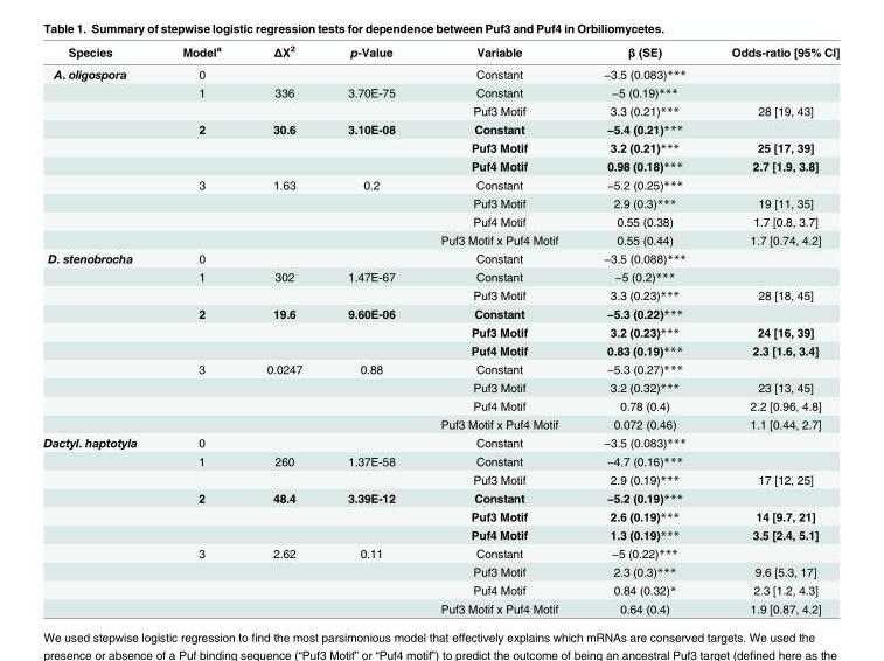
<table><thead><tr><td>Species</td><td>Model<sup>a</sup></td><td>ΔX<sup>2</sup></td><td>p-Value</td><td>Variable</td><td>β (SE)</td><td>Odds-ratio [95% CI]</td></tr></thead><tbody><tr><td rowspan="10">A. oligospora</td><td>0</td><td></td><td></td><td>Constant</td><td>−3.5 (0.083)***</td><td></td></tr><tr><td>1</td><td>336</td><td>3.70E-75</td><td>Constant</td><td>−5 (0.19)***</td><td></td></tr><tr><td></td><td></td><td></td><td>Puf3 Motif</td><td>3.3 (0.21)***</td><td>28 [19, 43]</td></tr><tr><td>2</td><td>30.6</td><td>3.10E-08</td><td>Constant</td><td>−5.4 (0.21)***</td><td></td></tr><tr><td></td><td></td><td></td><td>Puf3 Motif</td><td>3.2 (0.21)***</td><td>25 [17, 39]</td></tr><tr><td></td><td></td><td></td><td>Puf4 Motif</td><td>0.98 (0.18)***</td><td>2.7 [1.9, 3.8]</td></tr><tr><td>3</td><td>1.63</td><td>0.2</td><td>Constant</td><td>−5.2 (0.25)***</td><td></td></tr><tr><td></td><td></td><td></td><td>Puf3 Motif</td><td>2.9 (0.3)***</td><td>19 [11, 35]</td></tr><tr><td></td><td></td><td></td><td>Puf4 Motif</td><td>0.55 (0.38)</td><td>1.7 [0.8, 3.7]</td></tr><tr><td></td><td></td><td></td><td>Puf3 Motif x Puf4 Motif</td><td>0.55 (0.44)</td><td>1.7 [0.74, 4.2]</td></tr><tr><td rowspan="10">D. stenobrocha</td><td>0</td><td></td><td></td><td>Constant</td><td>−3.5 (0.088)***</td><td></td></tr><tr><td>1</td><td>302</td><td>1.47E-67</td><td>Constant</td><td>−5 (0.2)***</td><td></td></tr><tr><td></td><td></td><td></td><td>Puf3 Motif</td><td>3.3 (0.23)***</td><td>28 [18, 45]</td></tr><tr><td>2</td><td>19.6</td><td>9.60E-06</td><td>Constant</td><td>−5.3 (0.22)***</td><td></td></tr><tr><td></td><td></td><td></td><td>Puf3 Motif</td><td>3.2 (0.23)***</td><td>24 [16, 39]</td></tr><tr><td></td><td></td><td></td><td>Puf4 Motif</td><td>0.83 (0.19)***</td><td>2.3 [1.6, 3.4]</td></tr><tr><td>3</td><td>0.0247</td><td>0.88</td><td>Constant</td><td>−5.3 (0.27)***</td><td></td></tr><tr><td></td><td></td><td></td><td>Puf3 Motif</td><td>3.2 (0.32)***</td><td>23 [13, 45]</td></tr><tr><td></td><td></td><td></td><td>Puf4 Motif</td><td>0.78 (0.4)</td><td>2.2 [0.96, 4.8]</td></tr><tr><td></td><td></td><td></td><td>Puf3 Motif x Puf4 Motif</td><td>0.072 (0.46)</td><td>1.1 [0.44, 2.7]</td></tr><tr><td rowspan="10">Dactyl. haptotyla</td><td>0</td><td></td><td></td><td>Constant</td><td>−3.5 (0.083)***</td><td></td></tr><tr><td>1</td><td>260</td><td>1.37E-58</td><td>Constant</td><td>−4.7 (0.16)***</td><td></td></tr><tr><td></td><td></td><td></td><td>Puf3 Motif</td><td>2.9 (0.19)***</td><td>17 [12, 25]</td></tr><tr><td>2</td><td>48.4</td><td>3.39E-12</td><td>Constant</td><td>−5.2 (0.19)***</td><td></td></tr><tr><td></td><td></td><td></td><td>Puf3 Motif</td><td>2.6 (0.19)***</td><td>14 [9.7, 21]</td></tr><tr><td></td><td></td><td></td><td>Puf4 Motif</td><td>1.3 (0.19)***</td><td>3.5 [2.4, 5.1]</td></tr><tr><td>3</td><td>2.62</td><td>0.11</td><td>Constant</td><td>−5 (0.22)***</td><td></td></tr><tr><td></td><td></td><td></td><td>Puf3 Motif</td><td>2.3 (0.3)***</td><td>9.6 [5.3, 17]</td></tr><tr><td></td><td></td><td></td><td>Puf4 Motif</td><td>0.84 (0.32)*</td><td>2.3 [1.2, 4.3]</td></tr><tr><td></td><td></td><td></td><td>Puf3 Motif x Puf4 Motif</td><td>0.64 (0.4)</td><td>1.9 [0.87, 4.2]</td></tr></tbody></table>